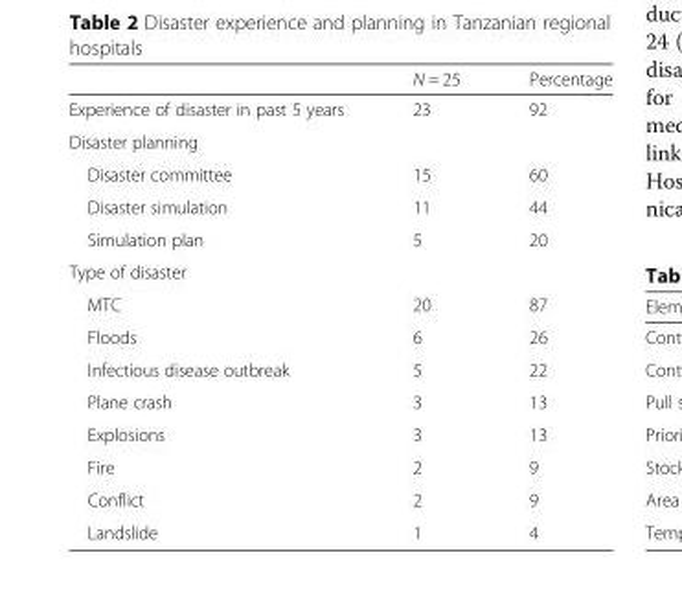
<table><thead><tr><td></td><td>N = 25</td><td>Percentage</td></tr></thead><tbody><tr><td>Experience of disaster in past 5 years</td><td>23</td><td>92</td></tr><tr><td colspan="3">Disaster planning</td></tr><tr><td>Disaster committee</td><td>15</td><td>60</td></tr><tr><td>Disaster simulation</td><td>11</td><td>44</td></tr><tr><td>Simulation plan</td><td>5</td><td>20</td></tr><tr><td colspan="3">Type of disaster</td></tr><tr><td>MTC</td><td>20</td><td>87</td></tr><tr><td>Floods</td><td>6</td><td>26</td></tr><tr><td>Infectious disease outbreak</td><td>5</td><td>22</td></tr><tr><td>Plane crash</td><td>3</td><td>13</td></tr><tr><td>Explosions</td><td>3</td><td>13</td></tr><tr><td>Fire</td><td>2</td><td>9</td></tr><tr><td>Conflict</td><td>2</td><td>9</td></tr><tr><td>Landslide</td><td>1</td><td>4</td></tr></tbody></table>